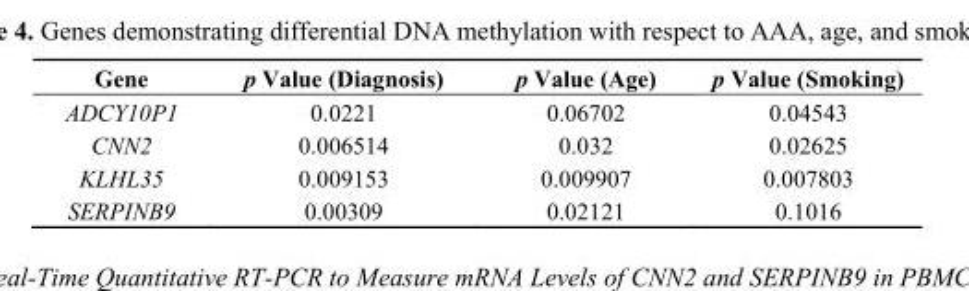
<table><thead><tr><td>Gene</td><td>p Value (Diagnosis)</td><td>p Value (Age)</td><td>p Value (Smoking)</td></tr></thead><tbody><tr><td>ADCY10P1</td><td>0.0221</td><td>0.06702</td><td>0.04543</td></tr><tr><td>CNN2</td><td>0.006514</td><td>0.032</td><td>0.02625</td></tr><tr><td>KLHL35</td><td>0.009153</td><td>0.009907</td><td>0.007803</td></tr><tr><td>SERPINB9</td><td>0.00309</td><td>0.02121</td><td>0.1016</td></tr></tbody></table>